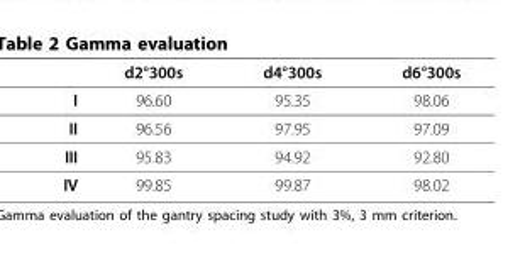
<table><thead><tr><td></td><td>d2°300s</td><td>d4°300s</td><td>d6°300s</td></tr></thead><tbody><tr><td>I</td><td>96.60</td><td>95.35</td><td>98.06</td></tr><tr><td>II</td><td>96.56</td><td>97.95</td><td>97.09</td></tr><tr><td>III</td><td>95.83</td><td>94.92</td><td>92.80</td></tr><tr><td>IV</td><td>99.85</td><td>99.87</td><td>98.02</td></tr></tbody></table>